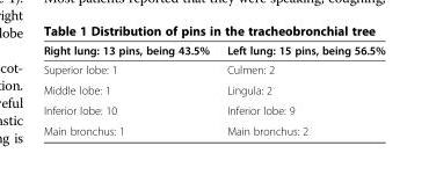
<table><thead><tr><td>Right lung: 13 pins, being 43.5%</td><td>Left lung: 15 pins, being 56.5%</td></tr></thead><tbody><tr><td>Superior lobe: 1</td><td>Culmen: 2</td></tr><tr><td>Middle lobe: 1</td><td>Lingula: 2</td></tr><tr><td>Inferior lobe: 10</td><td>Inferior lobe: 9</td></tr><tr><td>Main bronchus: 1</td><td>Main bronchus: 2</td></tr></tbody></table>